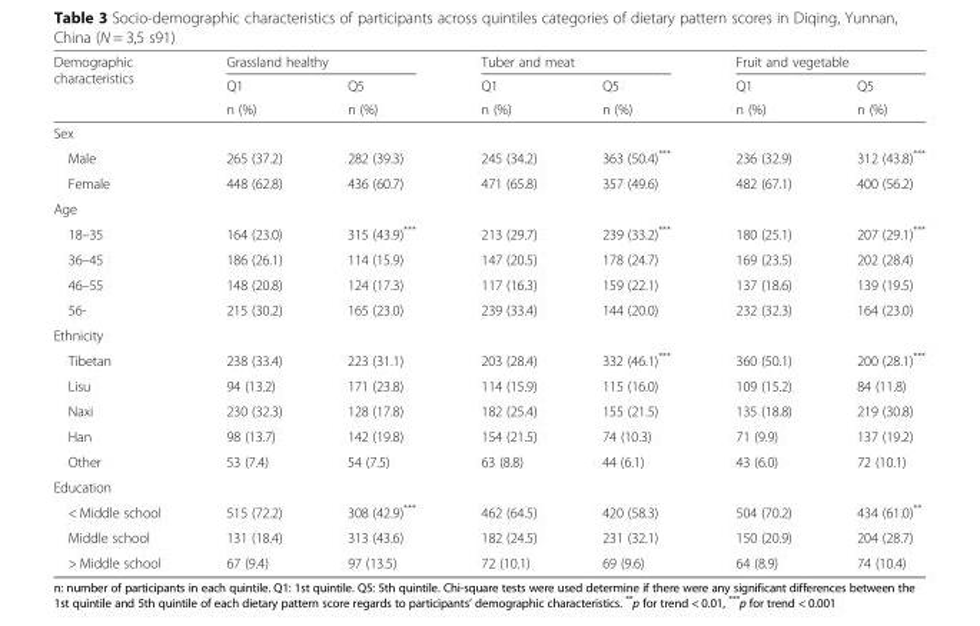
<table><thead><tr><td rowspan="3">Demographic characteristics</td><td colspan="2">Grassland healthy</td><td colspan="2">Tuber and meat</td><td colspan="2">Fruit and vegetable</td></tr><tr><td rowspan="2">Q1 n (%)</td><td rowspan="2">Q5 n (%)</td><td rowspan="2">Q1 n (%)</td><td rowspan="2">Q5 n (%)</td><td rowspan="2">Q1 n (%)</td><td rowspan="2">Q5 n (%)</td></tr><tr></tr></thead><tbody><tr><td colspan="7">Sex</td></tr><tr><td>Male</td><td>265 (37.2)</td><td>282 (39.3)</td><td>245 (34.2)</td><td>363 (50.4)***</td><td>236 (32.9)</td><td>312 (43.8)***</td></tr><tr><td>Female</td><td>448 (62.8)</td><td>436 (60.7)</td><td>471 (65.8)</td><td>357 (49.6)</td><td>482 (67.1)</td><td>400 (56.2)</td></tr><tr><td colspan="7">Age</td></tr><tr><td>18–35</td><td>164 (23.0)</td><td>315 (43.9)***</td><td>213 (29.7)</td><td>239 (33.2)***</td><td>180 (25.1)</td><td>207 (29.1)***</td></tr><tr><td>36–45</td><td>186 (26.1)</td><td>114 (15.9)</td><td>147 (20.5)</td><td>178 (24.7)</td><td>169 (23.5)</td><td>202 (28.4)</td></tr><tr><td>46–55</td><td>148 (20.8)</td><td>124 (17.3)</td><td>117 (16.3)</td><td>159 (22.1)</td><td>137 (18.6)</td><td>139 (19.5)</td></tr><tr><td>56-</td><td>215 (30.2)</td><td>165 (23.0)</td><td>239 (33.4)</td><td>144 (20.0)</td><td>232 (32.3)</td><td>164 (23.0)</td></tr><tr><td colspan="7">Ethnicity</td></tr><tr><td>Tibetan</td><td>238 (33.4)</td><td>223 (31.1)</td><td>203 (28.4)</td><td>332 (46.1)***</td><td>360 (50.1)</td><td>200 (28.1)***</td></tr><tr><td>Lisu</td><td>94 (13.2)</td><td>171 (23.8)</td><td>114 (15.9)</td><td>115 (16.0)</td><td>109 (15.2)</td><td>84 (11.8)</td></tr><tr><td>Naxi</td><td>230 (32.3)</td><td>128 (17.8)</td><td>182 (25.4)</td><td>155 (21.5)</td><td>135 (18.8)</td><td>219 (30.8)</td></tr><tr><td>Han</td><td>98 (13.7)</td><td>142 (19.8)</td><td>154 (21.5)</td><td>74 (10.3)</td><td>71 (9.9)</td><td>137 (19.2)</td></tr><tr><td>Other</td><td>53 (7.4)</td><td>54 (7.5)</td><td>63 (8.8)</td><td>44 (6.1)</td><td>43 (6.0)</td><td>72 (10.1)</td></tr><tr><td colspan="7">Education</td></tr><tr><td>&lt; Middle school</td><td>515 (72.2)</td><td>308 (42.9)***</td><td>462 (64.5)</td><td>420 (58.3)</td><td>504 (70.2)</td><td>434 (61.0)**</td></tr><tr><td>Middle school</td><td>131 (18.4)</td><td>313 (43.6)</td><td>182 (24.5)</td><td>231 (32.1)</td><td>150 (20.9)</td><td>204 (28.7)</td></tr><tr><td>&gt; Middle school</td><td>67 (9.4)</td><td>97 (13.5)</td><td>72 (10.1)</td><td>69 (9.6)</td><td>64 (8.9)</td><td>74 (10.4)</td></tr></tbody></table>